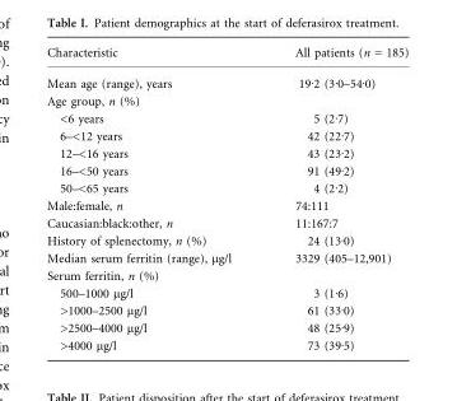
<table><thead><tr><td>Characteristic</td><td>All patients (n = 185)</td></tr></thead><tbody><tr><td>Mean age (range), years</td><td>19Æ2 (3Æ0–54Æ0)</td></tr><tr><td colspan="2">Age group, n (%)</td></tr><tr><td>&lt;6 years</td><td>5 (2Æ7)</td></tr><tr><td>6–&lt;12 years</td><td>42 (22Æ7)</td></tr><tr><td>12–&lt;16 years</td><td>43 (23Æ2)</td></tr><tr><td>16–&lt;50 years</td><td>91 (49Æ2)</td></tr><tr><td>50–&lt;65 years</td><td>4 (2Æ2)</td></tr><tr><td>Male:female, n</td><td>74:111</td></tr><tr><td>Caucasian:black:other, n</td><td>11:167:7</td></tr><tr><td>History of splenectomy, n (%)</td><td>24 (13Æ0)</td></tr><tr><td>Median serum ferritin (range), μg/l</td><td>3329 (405–12,901)</td></tr><tr><td colspan="2">Serum ferritin, n (%)</td></tr><tr><td>500–1000 μg/l</td><td>3 (1Æ6)</td></tr><tr><td>&gt;1000–2500 μg/l</td><td>61 (33Æ0)</td></tr><tr><td>&gt;2500–4000 μg/l</td><td>48 (25Æ9)</td></tr><tr><td>&gt;4000 μg/l</td><td>73 (39Æ5)</td></tr></tbody></table>